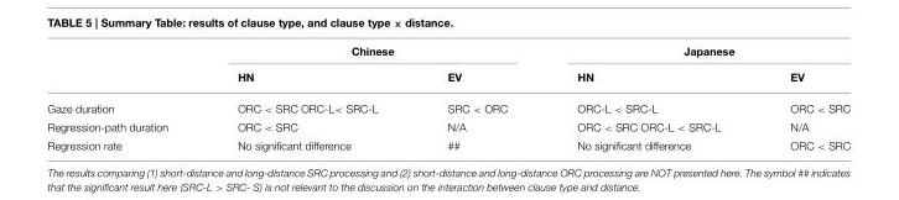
<table><thead><tr><td rowspan="2"></td><td colspan="2">Chinese</td><td colspan="2">Japanese</td></tr><tr><td>HN</td><td>EV</td><td>HN</td><td>EV</td></tr></thead><tbody><tr><td>Gaze duration</td><td>ORC &lt; SRC ORC-L&lt; SRC-L</td><td>SRC &lt; ORC</td><td>ORC-L &lt; SRC-L</td><td>ORC &lt; SRC</td></tr><tr><td>Regression-path duration</td><td>ORC &lt; SRC</td><td>N/A</td><td>ORC &lt; SRC ORC-L &lt; SRC-L</td><td>N/A</td></tr><tr><td>Regression rate</td><td>No significant difference</td><td>##</td><td>No significant difference</td><td>ORC &lt; SRC</td></tr></tbody></table>